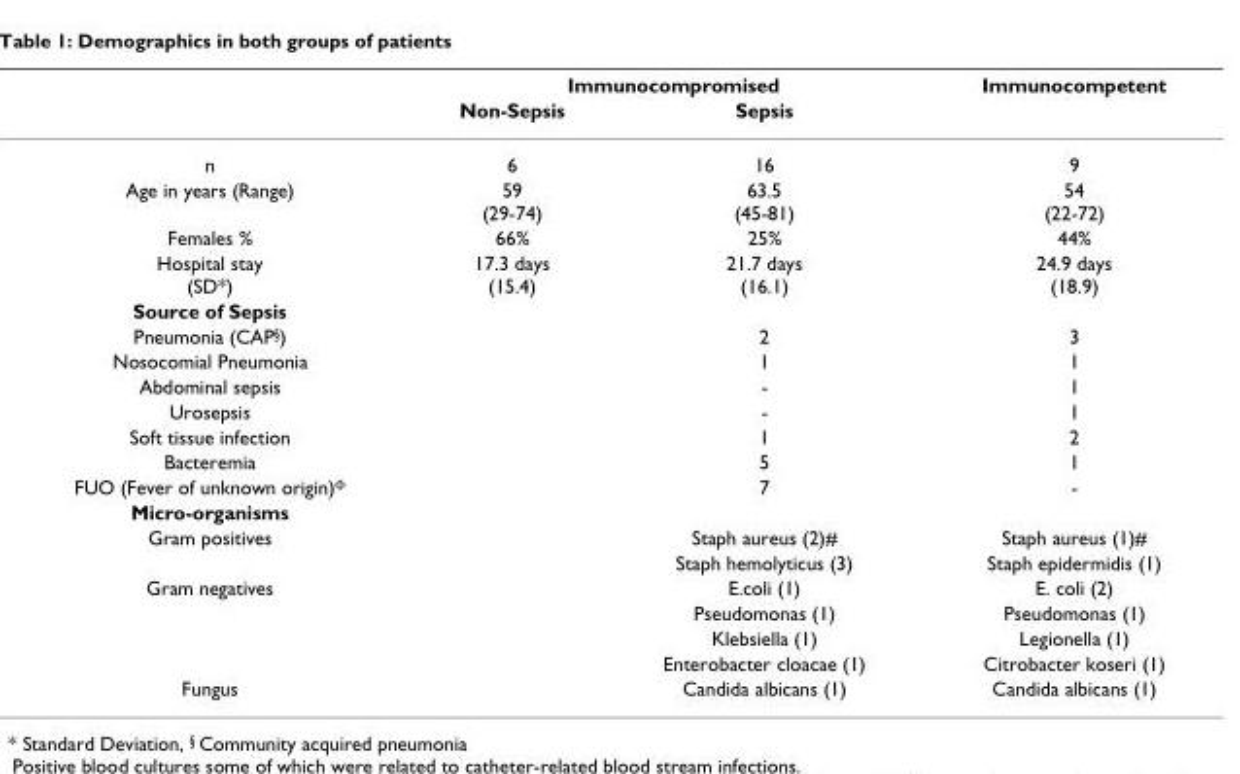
<table><thead><tr><td rowspan="2"></td><td colspan="2">Immunocompromised</td><td rowspan="2">Immunocompetent</td></tr><tr><td>Non-Sepsis</td><td>Sepsis</td></tr></thead><tbody><tr><td>n</td><td>6</td><td>16</td><td>9</td></tr><tr><td>Age in years (Range)</td><td>59 (29-74)</td><td>63.5 (45-81)</td><td>54 (22-72)</td></tr><tr><td>Females %</td><td>66%</td><td>25%</td><td>44%</td></tr><tr><td>Hospital stay (SD*)</td><td>17.3 days (15.4)</td><td>21.7 days (16.1)</td><td>24.9 days (18.9)</td></tr><tr><td colspan="4">Source of Sepsis</td></tr><tr><td>Pneumonia (CAP<sup>§</sup>)</td><td></td><td>2</td><td>3</td></tr><tr><td>Nosocomial Pneumonia</td><td></td><td>1</td><td>1</td></tr><tr><td>Abdominal sepsis</td><td></td><td>-</td><td>1</td></tr><tr><td>Urosepsis</td><td></td><td>-</td><td>1</td></tr><tr><td>Soft tissue infection</td><td></td><td>1</td><td>2</td></tr><tr><td>Bacteremia</td><td></td><td>5</td><td>1</td></tr><tr><td>FUO (Fever of unknown origin)<sup>Φ</sup></td><td></td><td>7</td><td>-</td></tr><tr><td colspan="4">Micro-organisms</td></tr><tr><td rowspan="2">Gram positives</td><td></td><td>Staph aureus (2)#</td><td>Staph aureus (1)#</td></tr><tr><td></td><td>Staph hemolyticus (3)</td><td>Staph epidermidis (1)</td></tr><tr><td rowspan="4">Gram negatives</td><td></td><td>E.coli (1)</td><td>E. coli (2)</td></tr><tr><td></td><td>Pseudomonas (1)</td><td>Pseudomonas (1)</td></tr><tr><td></td><td>Klebsiella (1)</td><td>Legionella (1)</td></tr><tr><td></td><td>Enterobacter cloacae (1)</td><td>Citrobacter koseri (1)</td></tr><tr><td>Fungus</td><td></td><td>Candida albicans (1)</td><td>Candida albicans (1)</td></tr></tbody></table>